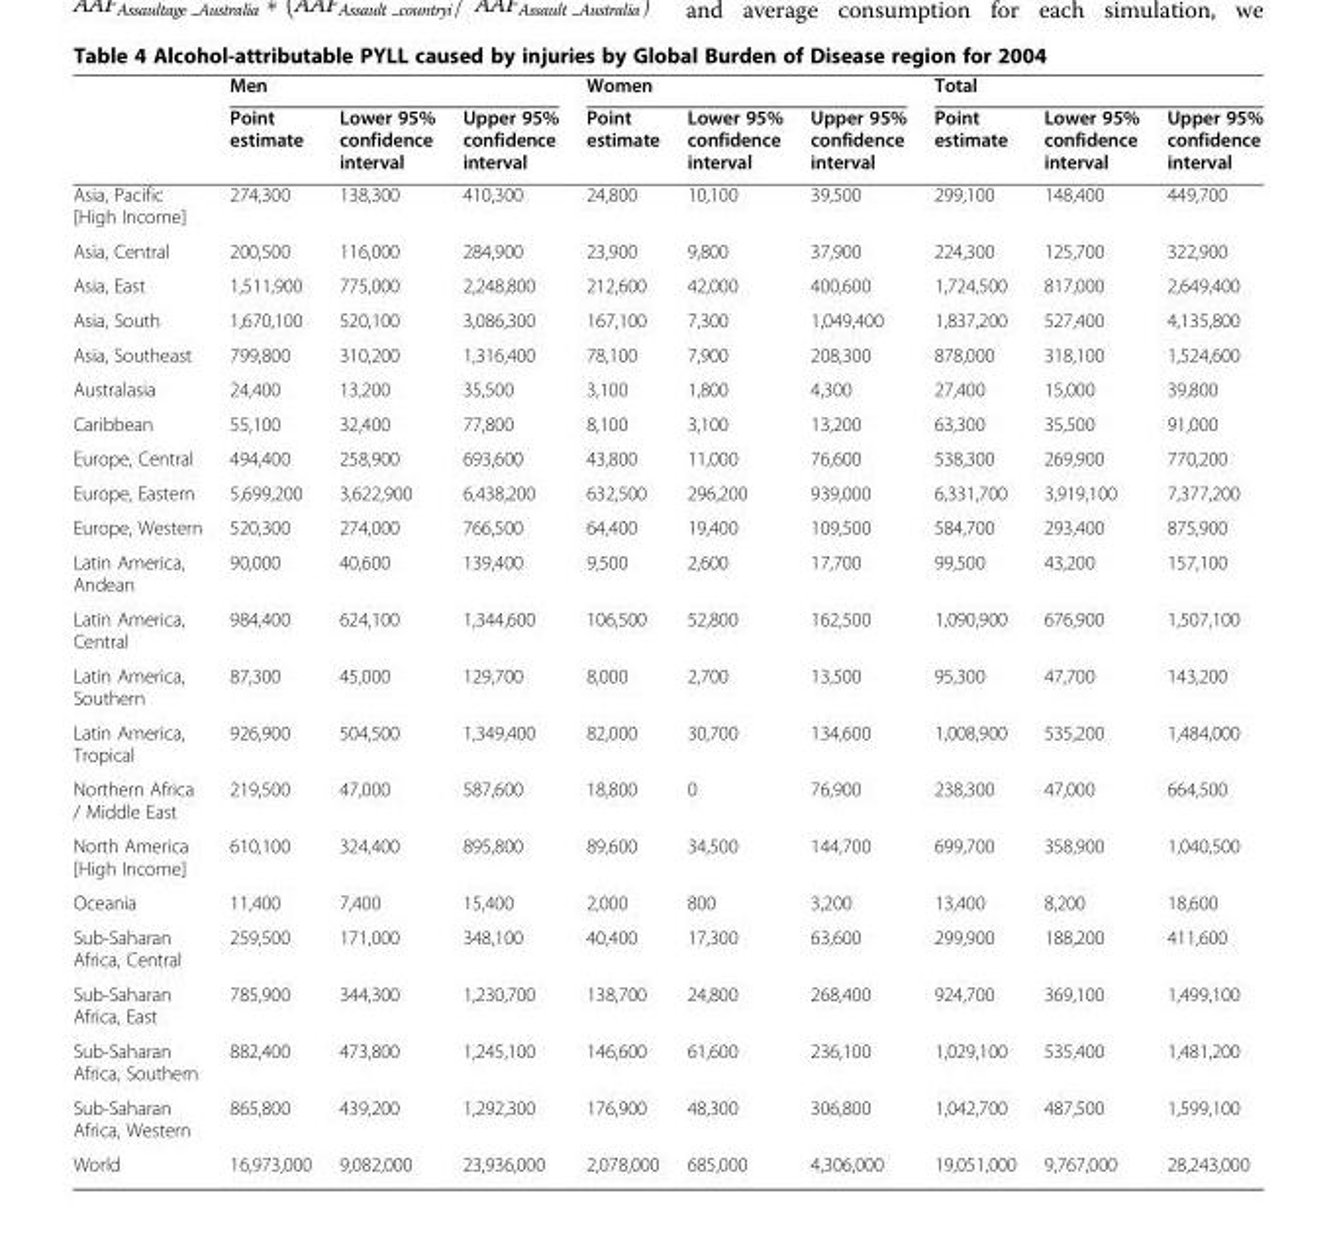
<table><thead><tr><td rowspan="2"></td><td colspan="3">Men</td><td colspan="3">Women</td><td colspan="3">Total</td></tr><tr><td>Point estimate</td><td>Lower 95% confidence interval</td><td>Upper 95% confidence interval</td><td>Point estimate</td><td>Lower 95% confidence interval</td><td>Upper 95% confidence interval</td><td>Point estimate</td><td>Lower 95% confidence interval</td><td>Upper 95% confidence interval</td></tr></thead><tbody><tr><td>Asia, Pacific [High Income]</td><td>274,300</td><td>138,300</td><td>410,300</td><td>24,800</td><td>10,100</td><td>39,500</td><td>299,100</td><td>148,400</td><td>449,700</td></tr><tr><td>Asia, Central</td><td>200,500</td><td>116,000</td><td>284,900</td><td>23,900</td><td>9,800</td><td>37,900</td><td>224,300</td><td>125,700</td><td>322,900</td></tr><tr><td>Asia, East</td><td>1,511,900</td><td>775,000</td><td>2,248,800</td><td>212,600</td><td>42,000</td><td>400,600</td><td>1,724,500</td><td>817,000</td><td>2,649,400</td></tr><tr><td>Asia, South</td><td>1,670,100</td><td>520,100</td><td>3,086,300</td><td>167,100</td><td>7,300</td><td>1,049,400</td><td>1,837,200</td><td>527,400</td><td>4,135,800</td></tr><tr><td>Asia, Southeast</td><td>799,800</td><td>310,200</td><td>1,316,400</td><td>78,100</td><td>7,900</td><td>208,300</td><td>878,000</td><td>318,100</td><td>1,524,600</td></tr><tr><td>Australasia</td><td>24,400</td><td>13,200</td><td>35,500</td><td>3,100</td><td>1,800</td><td>4,300</td><td>27,400</td><td>15,000</td><td>39,800</td></tr><tr><td>Caribbean</td><td>55,100</td><td>32,400</td><td>77,800</td><td>8,100</td><td>3,100</td><td>13,200</td><td>63,300</td><td>35,500</td><td>91,000</td></tr><tr><td>Europe, Central</td><td>494,400</td><td>258,900</td><td>693,600</td><td>43,800</td><td>11,000</td><td>76,600</td><td>538,300</td><td>269,900</td><td>770,200</td></tr><tr><td>Europe, Eastern</td><td>5,699,200</td><td>3,622,900</td><td>6,438,200</td><td>632,500</td><td>296,200</td><td>939,000</td><td>6,331,700</td><td>3,919,100</td><td>7,377,200</td></tr><tr><td>Europe, Western</td><td>520,300</td><td>274,000</td><td>766,500</td><td>64,400</td><td>19,400</td><td>109,500</td><td>584,700</td><td>293,400</td><td>875,900</td></tr><tr><td>Latin America, Andean</td><td>90,000</td><td>40,600</td><td>139,400</td><td>9,500</td><td>2,600</td><td>17,700</td><td>99,500</td><td>43,200</td><td>157,100</td></tr><tr><td>Latin America, Central</td><td>984,400</td><td>624,100</td><td>1,344,600</td><td>106,500</td><td>52,800</td><td>162,500</td><td>1,090,900</td><td>676,900</td><td>1,507,100</td></tr><tr><td>Latin America, Southern</td><td>87,300</td><td>45,000</td><td>129,700</td><td>8,000</td><td>2,700</td><td>13,500</td><td>95,300</td><td>47,700</td><td>143,200</td></tr><tr><td>Latin America, Tropical</td><td>926,900</td><td>504,500</td><td>1,349,400</td><td>82,000</td><td>30,700</td><td>134,600</td><td>1,008,900</td><td>535,200</td><td>1,484,000</td></tr><tr><td>Northern Africa / Middle East</td><td>219,500</td><td>47,000</td><td>587,600</td><td>18,800</td><td>0</td><td>76,900</td><td>238,300</td><td>47,000</td><td>664,500</td></tr><tr><td>North America [High Income]</td><td>610,100</td><td>324,400</td><td>895,800</td><td>89,600</td><td>34,500</td><td>144,700</td><td>699,700</td><td>358,900</td><td>1,040,500</td></tr><tr><td>Oceania</td><td>11,400</td><td>7,400</td><td>15,400</td><td>2,000</td><td>800</td><td>3,200</td><td>13,400</td><td>8,200</td><td>18,600</td></tr><tr><td>Sub-Saharan Africa, Central</td><td>259,500</td><td>171,000</td><td>348,100</td><td>40,400</td><td>17,300</td><td>63,600</td><td>299,900</td><td>188,200</td><td>411,600</td></tr><tr><td>Sub-Saharan Africa, East</td><td>785,900</td><td>344,300</td><td>1,230,700</td><td>138,700</td><td>24,800</td><td>268,400</td><td>924,700</td><td>369,100</td><td>1,499,100</td></tr><tr><td>Sub-Saharan Africa, Southern</td><td>882,400</td><td>473,800</td><td>1,245,100</td><td>146,600</td><td>61,600</td><td>236,100</td><td>1,029,100</td><td>535,400</td><td>1,481,200</td></tr><tr><td>Sub-Saharan Africa, Western</td><td>865,800</td><td>439,200</td><td>1,292,300</td><td>176,900</td><td>48,300</td><td>306,800</td><td>1,042,700</td><td>487,500</td><td>1,599,100</td></tr><tr><td>World</td><td>16,973,000</td><td>9,082,000</td><td>23,936,000</td><td>2,078,000</td><td>685,000</td><td>4,306,000</td><td>19,051,000</td><td>9,767,000</td><td>28,243,000</td></tr></tbody></table>